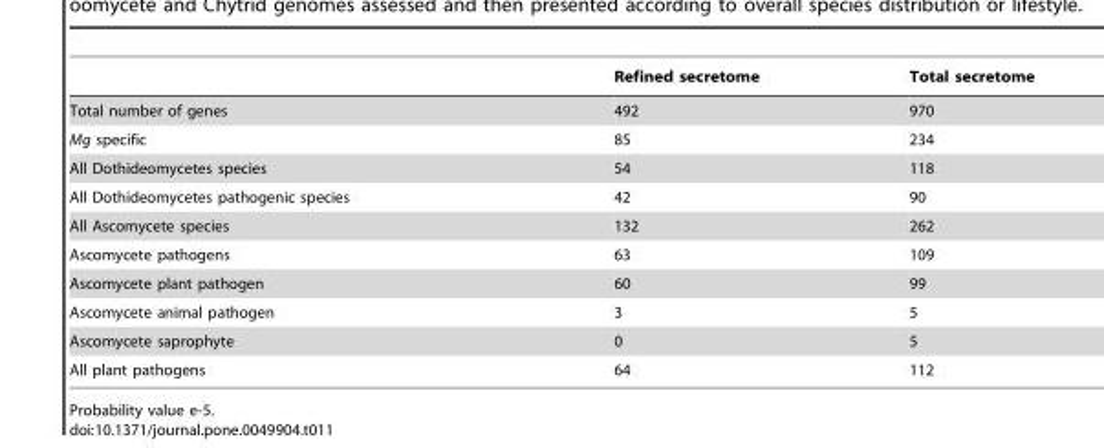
<table><thead><tr><td></td><td>Refined secretome</td><td>Total secretome</td></tr></thead><tbody><tr><td>Total number of genes</td><td>492</td><td>970</td></tr><tr><td>Mg specific</td><td>85</td><td>234</td></tr><tr><td>All Dothideomycetes species</td><td>54</td><td>118</td></tr><tr><td>All Dothideomycetes pathogenic species</td><td>42</td><td>90</td></tr><tr><td>All Ascomycete species</td><td>132</td><td>262</td></tr><tr><td>Ascomycete pathogens</td><td>63</td><td>109</td></tr><tr><td>Ascomycete plant pathogen</td><td>60</td><td>99</td></tr><tr><td>Ascomycete animal pathogen</td><td>3</td><td>5</td></tr><tr><td>Ascomycete saprophyte</td><td>0</td><td>5</td></tr><tr><td>All plant pathogens</td><td>64</td><td>112</td></tr></tbody></table>